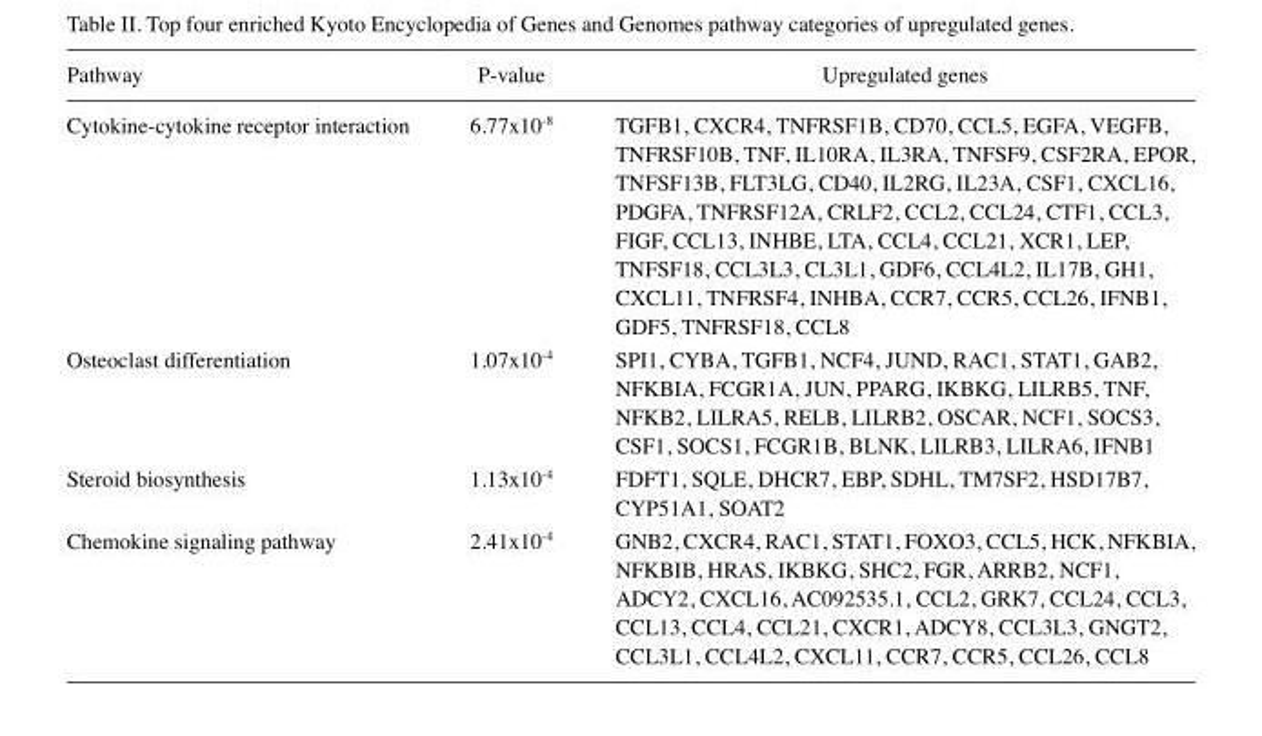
<table><thead><tr><td>Pathway</td><td>P-value</td><td>Upregulated genes</td></tr></thead><tbody><tr><td>Cytokine-cytokine receptor interaction</td><td>6.77x10-8</td><td>TGFB1, CXCR4, TNFRSF1B, CD70, CCL5, EGFA, VEGFB, TNFRSF10B, TNF, IL10RA, IL3RA, TNFSF9, CSF2RA, EPOR, TNFSF13B, FLT3LG, CD40, IL2RG, IL23A, CSF1, CXCL16, PDGFA, TNFRSF12A, CRLF2, CCL2, CCL24, CTF1, CCL3, FIGF, CCL13, INHBE, LTA, CCL4, CCL21, XCR1, LEP, TNFSF18, CCL3L3, CL3L1, GDF6, CCL4L2, IL17B, GH1, CXCL11, TNFRSF4, INHBA, CCR7, CCR5, CCL26, IFNB1, GDF5, TNFRSF18, CCL8</td></tr><tr><td>Osteoclast differentiation</td><td>1.07x10-4</td><td>SPI1, CYBA, TGFB1, NCF4, JUND, RAC1, STAT1, GAB2, NFKBIA, FCGR1A, JUN, PPARG, IKBKG, LILRB5, TNF, NFKB2, LILRA5, RELB, LILRB2, OSCAR, NCF1, SOCS3, CSF1, SOCS1, FCGR1B, BLNK, LILRB3, LILRA6, IFNB1</td></tr><tr><td>Steroid biosynthesis</td><td>1.13x10-4</td><td>FDFT1, SQLE, DHCR7, EBP, SDHL, TM7SF2, HSD17B7, CYP51A1, SOAT2</td></tr><tr><td>Chemokine signaling pathway</td><td>2.41x10-4</td><td>GNB2, CXCR4, RAC1, STAT1, FOXO3, CCL5, HCK, NFKBIA, NFKBIB, HRAS, IKBKG, SHC2, FGR, ARRB2, NCF1, ADCY2, CXCL16, AC092535.1, CCL2, GRK7, CCL24, CCL3, CCL13, CCL4, CCL21, CXCR1, ADCY8, CCL3L3, GNGT2, CCL3L1, CCL4L2, CXCL11, CCR7, CCR5, CCL26, CCL8</td></tr></tbody></table>